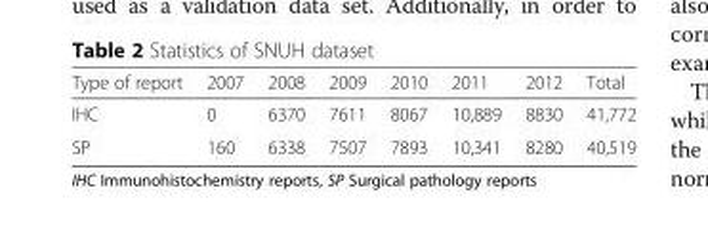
<table><thead><tr><td>Type of report</td><td>2007</td><td>2008</td><td>2009</td><td>2010</td><td>2011</td><td>2012</td><td>Total</td></tr></thead><tbody><tr><td>IHC</td><td>0</td><td>6370</td><td>7611</td><td>8067</td><td>10,889</td><td>8830</td><td>41,772</td></tr><tr><td>SP</td><td>160</td><td>6338</td><td>7507</td><td>7893</td><td>10,341</td><td>8280</td><td>40,519</td></tr></tbody></table>